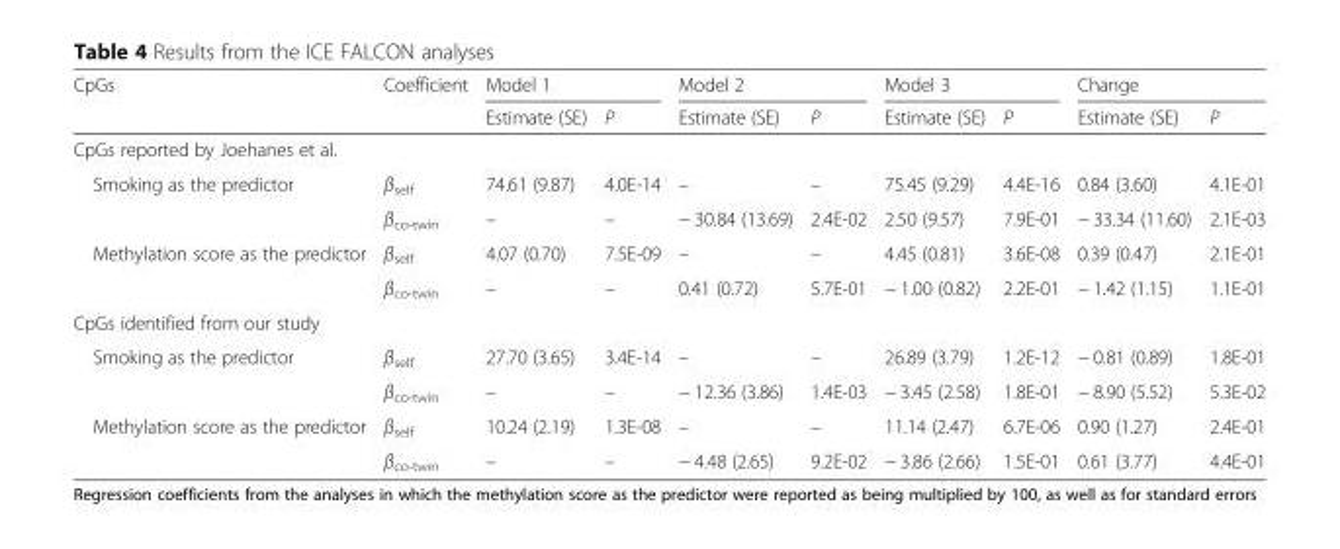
<table><thead><tr><td rowspan="2">CpGs</td><td rowspan="2">Coefficient</td><td colspan="2">Model 1</td><td colspan="2">Model 2</td><td colspan="2">Model 3</td><td colspan="2">Change</td></tr><tr><td>Estimate (SE)</td><td>P</td><td>Estimate (SE)</td><td>P</td><td>Estimate (SE)</td><td>P</td><td>Estimate (SE)</td><td>P</td></tr></thead><tbody><tr><td colspan="10">CpGs reported by Joehanes et al.</td></tr><tr><td rowspan="2">Smoking as the predictor</td><td>β<sub>self</sub></td><td>74.61 (9.87)</td><td>4.0E-14</td><td>–</td><td>–</td><td>75.45 (9.29)</td><td>4.4E-16</td><td>0.84 (3.60)</td><td>4.1E-01</td></tr><tr><td>β<sub>co-twin</sub></td><td>–</td><td>–</td><td>− 30.84 (13.69)</td><td>2.4E-02</td><td>2.50 (9.57)</td><td>7.9E-01</td><td>− 33.34 (11.60)</td><td>2.1E-03</td></tr><tr><td rowspan="2">Methylation score as the predictor</td><td>β<sub>self</sub></td><td>4.07 (0.70)</td><td>7.5E-09</td><td>–</td><td>–</td><td>4.45 (0.81)</td><td>3.6E-08</td><td>0.39 (0.47)</td><td>2.1E-01</td></tr><tr><td>β<sub>co-twin</sub></td><td>–</td><td>–</td><td>0.41 (0.72)</td><td>5.7E-01</td><td>− 1.00 (0.82)</td><td>2.2E-01</td><td>− 1.42 (1.15)</td><td>1.1E-01</td></tr><tr><td colspan="10">CpGs identified from our study</td></tr><tr><td rowspan="2">Smoking as the predictor</td><td>β<sub>self</sub></td><td>27.70 (3.65)</td><td>3.4E-14</td><td>–</td><td>–</td><td>26.89 (3.79)</td><td>1.2E-12</td><td>− 0.81 (0.89)</td><td>1.8E-01</td></tr><tr><td>β<sub>co-twin</sub></td><td>–</td><td>–</td><td>− 12.36 (3.86)</td><td>1.4E-03</td><td>− 3.45 (2.58)</td><td>1.8E-01</td><td>− 8.90 (5.52)</td><td>5.3E-02</td></tr><tr><td rowspan="2">Methylation score as the predictor</td><td>β<sub>self</sub></td><td>10.24 (2.19)</td><td>1.3E-08</td><td>–</td><td>–</td><td>11.14 (2.47)</td><td>6.7E-06</td><td>0.90 (1.27)</td><td>2.4E-01</td></tr><tr><td>β<sub>co-twin</sub></td><td>–</td><td>–</td><td>− 4.48 (2.65)</td><td>9.2E-02</td><td>− 3.86 (2.66)</td><td>1.5E-01</td><td>0.61 (3.77)</td><td>4.4E-01</td></tr></tbody></table>